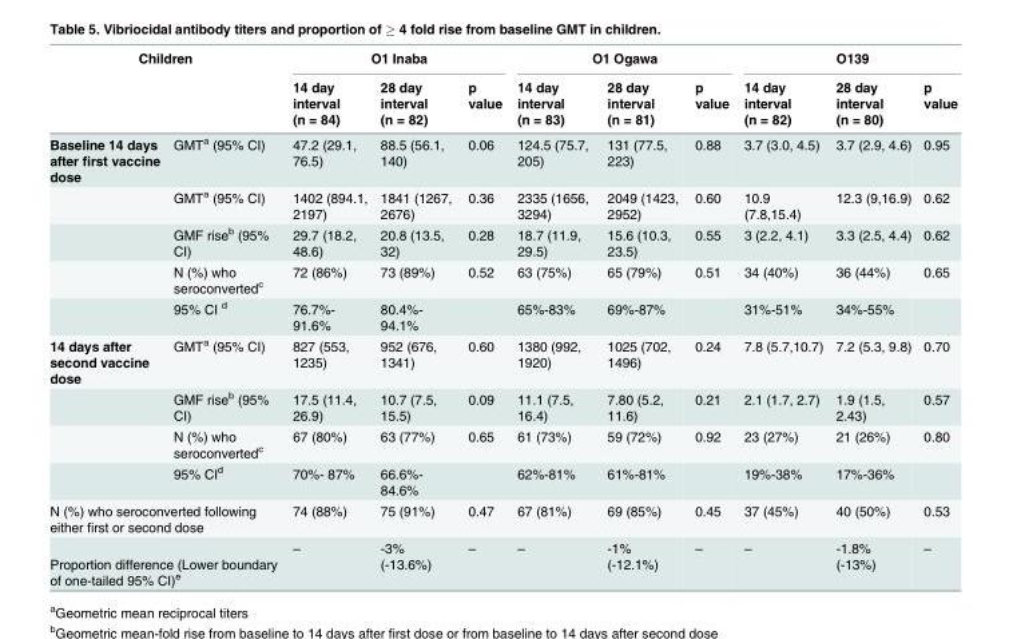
<table><thead><tr><td colspan="2">Children</td><td colspan="3">O1 Inaba</td><td colspan="3">O1 Ogawa</td><td colspan="3">O139</td></tr><tr><td></td><td></td><td>14 day interval (n = 84)</td><td>28 day interval (n = 82)</td><td>p value</td><td>14 day interval (n = 83)</td><td>28 day interval (n = 81)</td><td>p value</td><td>14 day interval (n = 82)</td><td>28 day interval (n = 80)</td><td>p value</td></tr></thead><tbody><tr><td rowspan="5">Baseline 14 days after first vaccine dose</td><td>GMT<sup>a</sup> (95% CI)</td><td>47.2 (29.1, 76.5)</td><td>88.5 (56.1, 140)</td><td>0.06</td><td>124.5 (75.7, 205)</td><td>131 (77.5, 223)</td><td>0.88</td><td>3.7 (3.0, 4.5)</td><td>3.7 (2.9, 4.6)</td><td>0.95</td></tr><tr><td>GMT<sup>a</sup> (95% CI)</td><td>1402 (894.1, 2197)</td><td>1841 (1267, 2676)</td><td>0.36</td><td>2335 (1656, 3294)</td><td>2049 (1423, 2952)</td><td>0.60</td><td>10.9 (7.8,15.4)</td><td>12.3 (9,16.9)</td><td>0.62</td></tr><tr><td>GMF rise<sup>b</sup> (95% CI)</td><td>29.7 (18.2, 48.6)</td><td>20.8 (13.5, 32)</td><td>0.28</td><td>18.7 (11.9, 29.5)</td><td>15.6 (10.3, 23.5)</td><td>0.55</td><td>3 (2.2, 4.1)</td><td>3.3 (2.5, 4.4)</td><td>0.62</td></tr><tr><td>N (%) who seroconverted<sup>c</sup></td><td>72 (86%)</td><td>73 (89%)</td><td>0.52</td><td>63 (75%)</td><td>65 (79%)</td><td>0.51</td><td>34 (40%)</td><td>36 (44%)</td><td>0.65</td></tr><tr><td>95% CI <sup>d</sup></td><td>76.7%- 91.6%</td><td>80.4%- 94.1%</td><td></td><td>65%-83%</td><td>69%-87%</td><td></td><td>31%-51%</td><td>34%-55%</td><td></td></tr><tr><td rowspan="4">14 days after second vaccine dose</td><td>GMT<sup>a</sup> (95% CI)</td><td>827 (553, 1235)</td><td>952 (676, 1341)</td><td>0.60</td><td>1380 (992, 1920)</td><td>1025 (702, 1496)</td><td>0.24</td><td>7.8 (5.7,10.7)</td><td>7.2 (5.3, 9.8)</td><td>0.70</td></tr><tr><td>GMF rise<sup>b</sup> (95% CI)</td><td>17.5 (11.4, 26.9)</td><td>10.7 (7.5, 15.5)</td><td>0.09</td><td>11.1 (7.5, 16.4)</td><td>7.80 (5.2, 11.6)</td><td>0.21</td><td>2.1 (1.7, 2.7)</td><td>1.9 (1.5, 2.43)</td><td>0.57</td></tr><tr><td>N (%) who seroconverted<sup>c</sup></td><td>67 (80%)</td><td>63 (77%)</td><td>0.65</td><td>61 (73%)</td><td>59 (72%)</td><td>0.92</td><td>23 (27%)</td><td>21 (26%)</td><td>0.80</td></tr><tr><td>95% CI<sup>d</sup></td><td>70%- 87%</td><td>66.6%- 84.6%</td><td></td><td>62%-81%</td><td>61%-81%</td><td></td><td>19%-38%</td><td>17%-36%</td><td></td></tr><tr><td colspan="2">N (%) who seroconverted following either first or second dose</td><td>74 (88%)</td><td>75 (91%)</td><td>0.47</td><td>67 (81%)</td><td>69 (85%)</td><td>0.45</td><td>37 (45%)</td><td>40 (50%)</td><td>0.53</td></tr><tr><td colspan="2">Proportion difference (Lower boundary of one-tailed 95% CI)<sup>e</sup></td><td>–</td><td>-3% (-13.6%)</td><td>–</td><td>–</td><td>-1% (-12.1%)</td><td>–</td><td>–</td><td>-1.8% (-13%)</td><td>–</td></tr></tbody></table>